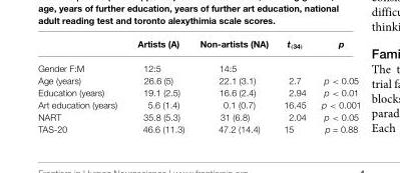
<table><thead><tr><td></td><td>Artists (A)</td><td>Non-artists (NA)</td><td>t<sub>(34)</sub></td><td>p</td></tr></thead><tbody><tr><td>Gender F:M</td><td>12:5</td><td>14:5</td><td></td><td></td></tr><tr><td>Age (years)</td><td>26.6 (5)</td><td>22.1 (3.1)</td><td>2.7</td><td>p &lt; 0.05</td></tr><tr><td>Education (years)</td><td>19.1 (2.5)</td><td>16.6 (2.4)</td><td>2.94</td><td>p &lt; 0.01</td></tr><tr><td>Art education (years)</td><td>5.6 (1.4)</td><td>0.1 (0.7)</td><td>16.45</td><td>p &lt; 0.001</td></tr><tr><td>NART</td><td>35.8 (5.3)</td><td>31 (6.8)</td><td>2.04</td><td>p &lt; 0.05</td></tr><tr><td>TAS-20</td><td>46.6 (11.3)</td><td>47.2 (14.4)</td><td>15</td><td>p = 0.88</td></tr></tbody></table>